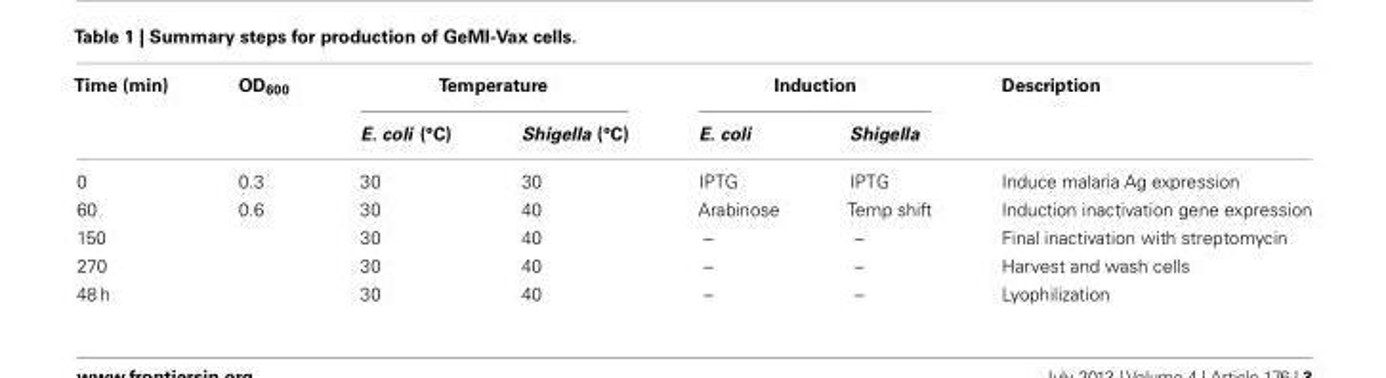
<table><thead><tr><td rowspan="2">Time (min)</td><td rowspan="2">OD<sub>600</sub></td><td colspan="2">Temperature</td><td colspan="2">Induction</td><td rowspan="2">Description</td></tr><tr><td>E. coli (°C)</td><td>Shigella (°C)</td><td>E. coli</td><td>Shigella</td></tr></thead><tbody><tr><td>0</td><td>0.3</td><td>30</td><td>30</td><td>IPTG</td><td>IPTG</td><td>Induce malaria Ag expression</td></tr><tr><td>60</td><td>0.6</td><td>30</td><td>40</td><td>Arabinose</td><td>Temp shift</td><td>Induction inactivation gene expression</td></tr><tr><td>150</td><td></td><td>30</td><td>40</td><td>–</td><td>–</td><td>Final inactivation with streptomycin</td></tr><tr><td>270</td><td></td><td>30</td><td>40</td><td>–</td><td>–</td><td>Harvest and wash cells</td></tr><tr><td>48 h</td><td></td><td>30</td><td>40</td><td>–</td><td>–</td><td>Lyophilization</td></tr></tbody></table>